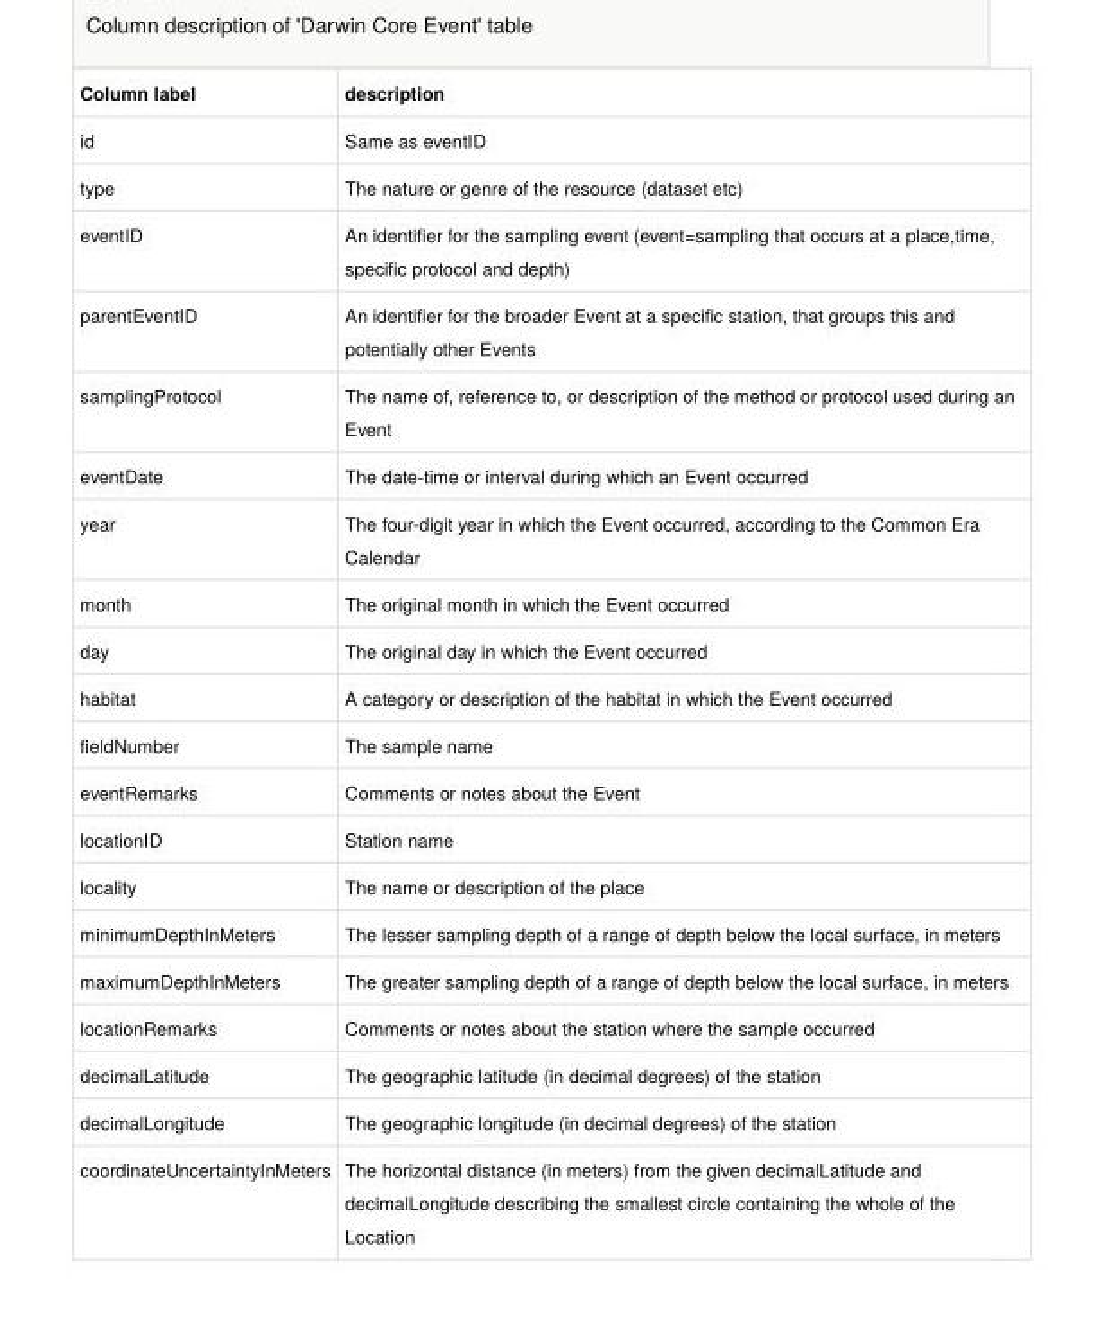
<table><tbody><tr><td>Column label</td><td>description</td></tr><tr><td>id</td><td>Same as eventID</td></tr><tr><td>type</td><td>The nature or genre of the resource (dataset etc)</td></tr><tr><td>eventID</td><td>An identifier for the sampling event (event=sampling that occurs at a place,time, specific protocol and depth)</td></tr><tr><td>parentEventID</td><td>An identifier for the broader Event at a specific station, that groups this and potentially other Events</td></tr><tr><td>samplingProtocol</td><td>The name of, reference to, or description of the method or protocol used during an Event</td></tr><tr><td>eventDate</td><td>The date-time or interval during which an Event occurred</td></tr><tr><td>year</td><td>The four-digit year in which the Event occurred, according to the Common Era Calendar</td></tr><tr><td>month</td><td>The original month in which the Event occurred</td></tr><tr><td>day</td><td>The original day in which the Event occurred</td></tr><tr><td>habitat</td><td>A category or description of the habitat in which the Event occurred</td></tr><tr><td>fieldNumber</td><td>The sample name</td></tr><tr><td>eventRemarks</td><td>Comments or notes about the Event</td></tr><tr><td>locationID</td><td>Station name</td></tr><tr><td>locality</td><td>The name or description of the place</td></tr><tr><td>minimumDepthInMeters</td><td>The lesser sampling depth of a range of depth below the local surface, in meters</td></tr><tr><td>maximumDepthInMeters</td><td>The greater sampling depth of a range of depth below the local surface, in meters</td></tr><tr><td>locationRemarks</td><td>Comments or notes about the station where the sample occurred</td></tr><tr><td>decimalLatitude</td><td>The geographic latitude (in decimal degrees) of the station</td></tr><tr><td>decimalLongitude</td><td>The geographic longitude (in decimal degrees) of the station</td></tr><tr><td>coordinateUncertaintyInMeters</td><td>The horizontal distance (in meters) from the given decimalLatitude and decimalLongitude describing the smallest circle containing the whole of the Location</td></tr></tbody></table>